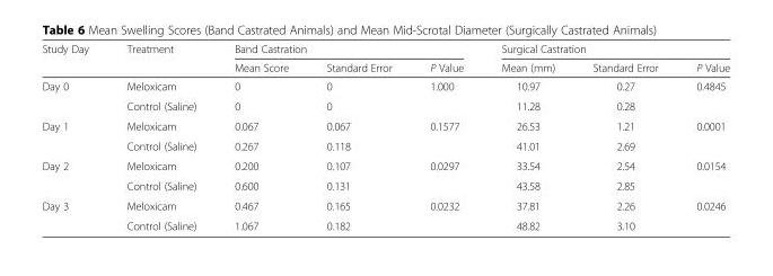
<table><thead><tr><td rowspan="2">Study Day</td><td rowspan="2">Treatment</td><td colspan="3">Band Castration</td><td colspan="3">Surgical Castration</td></tr><tr><td>Mean Score</td><td>Standard Error</td><td>P Value</td><td>Mean (mm)</td><td>Standard Error</td><td>P Value</td></tr></thead><tbody><tr><td rowspan="2">Day 0</td><td>Meloxicam</td><td>0</td><td>0</td><td rowspan="2">1.000</td><td>10.97</td><td>0.27</td><td rowspan="2">0.4845</td></tr><tr><td>Control (Saline)</td><td>0</td><td>0</td><td>11.28</td><td>0.28</td></tr><tr><td rowspan="2">Day 1</td><td>Meloxicam</td><td>0.067</td><td>0.067</td><td rowspan="2">0.1577</td><td>26.53</td><td>1.21</td><td rowspan="2">0.0001</td></tr><tr><td>Control (Saline)</td><td>0.267</td><td>0.118</td><td>41.01</td><td>2.69</td></tr><tr><td rowspan="2">Day 2</td><td>Meloxicam</td><td>0.200</td><td>0.107</td><td rowspan="2">0.0297</td><td>33.54</td><td>2.54</td><td rowspan="2">0.0154</td></tr><tr><td>Control (Saline)</td><td>0.600</td><td>0.131</td><td>43.58</td><td>2.85</td></tr><tr><td rowspan="2">Day 3</td><td>Meloxicam</td><td>0.467</td><td>0.165</td><td rowspan="2">0.0232</td><td>37.81</td><td>2.26</td><td rowspan="2">0.0246</td></tr><tr><td>Control (Saline)</td><td>1.067</td><td>0.182</td><td>48.82</td><td>3.10</td></tr></tbody></table>